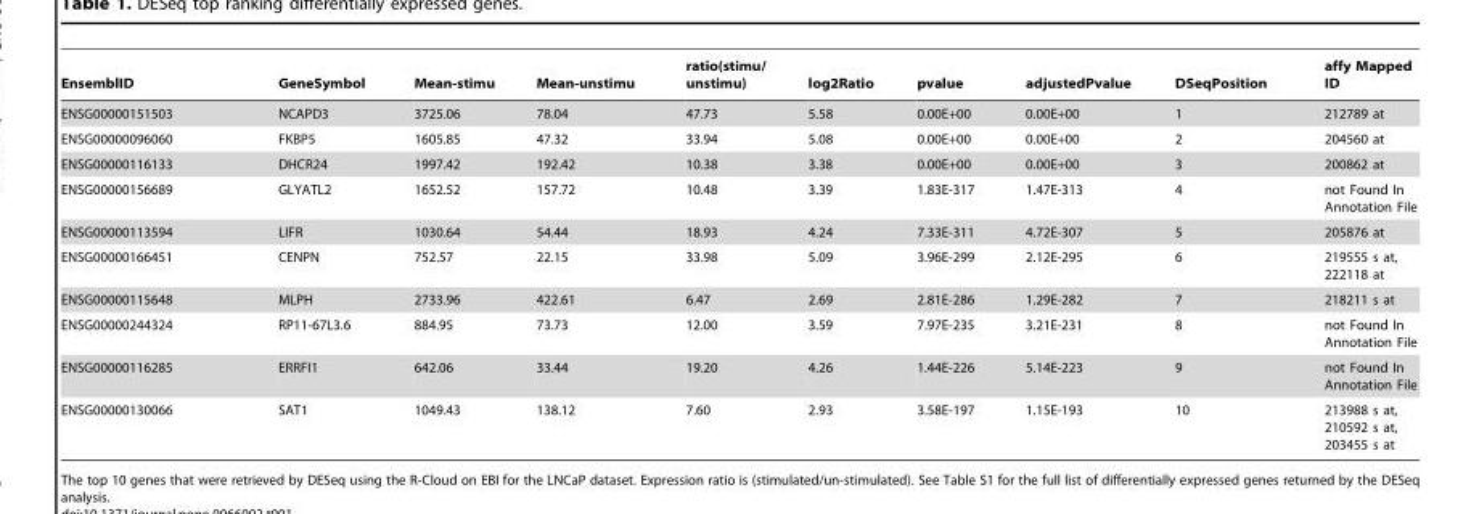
<table><thead><tr><td>EnsemblID</td><td>GeneSymbol</td><td>Mean-stimu</td><td>Mean-unstimu</td><td>ratio(stimu/ unstimu)</td><td>log2Ratio</td><td>pvalue</td><td>adjustedPvalue</td><td>DSeqPosition</td><td>affy Mapped ID</td></tr></thead><tbody><tr><td>ENSG00000151503</td><td>NCAPD3</td><td>3725.06</td><td>78.04</td><td>47.73</td><td>5.58</td><td>0.00E+00</td><td>0.00E+00</td><td>1</td><td>212789 at</td></tr><tr><td>ENSG00000096060</td><td>FKBP5</td><td>1605.85</td><td>47.32</td><td>33.94</td><td>5.08</td><td>0.00E+00</td><td>0.00E+00</td><td>2</td><td>204560 at</td></tr><tr><td>ENSG00000116133</td><td>DHCR24</td><td>1997.42</td><td>192.42</td><td>10.38</td><td>3.38</td><td>0.00E+00</td><td>0.00E+00</td><td>3</td><td>200862 at</td></tr><tr><td>ENSG00000156689</td><td>GLYATL2</td><td>1652.52</td><td>157.72</td><td>10.48</td><td>3.39</td><td>1.83E-317</td><td>1.47E-313</td><td>4</td><td>not Found In Annotation File</td></tr><tr><td>ENSG00000113594</td><td>LIFR</td><td>1030.64</td><td>54.44</td><td>18.93</td><td>4.24</td><td>7.33E-311</td><td>4.72E-307</td><td>5</td><td>205876 at</td></tr><tr><td>ENSG00000166451</td><td>CENPN</td><td>752.57</td><td>22.15</td><td>33.98</td><td>5.09</td><td>3.96E-299</td><td>2.12E-295</td><td>6</td><td>219555 s at, 222118 at</td></tr><tr><td>ENSG00000115648</td><td>MLPH</td><td>2733.96</td><td>422.61</td><td>6.47</td><td>2.69</td><td>2.81E-286</td><td>1.29E-282</td><td>7</td><td>218211 s at</td></tr><tr><td>ENSG00000244324</td><td>RP11-67L3.6</td><td>884.95</td><td>73.73</td><td>12.00</td><td>3.59</td><td>7.97E-235</td><td>3.21E-231</td><td>8</td><td>not Found In Annotation File</td></tr><tr><td>ENSG00000116285</td><td>ERRFI1</td><td>642.06</td><td>33.44</td><td>19.20</td><td>4.26</td><td>1.44E-226</td><td>5.14E-223</td><td>9</td><td>not Found In Annotation File</td></tr><tr><td>ENSG00000130066</td><td>SAT1</td><td>1049.43</td><td>138.12</td><td>7.60</td><td>2.93</td><td>3.58E-197</td><td>1.15E-193</td><td>10</td><td>213988 s at, 210592 s at, 203455 s at</td></tr></tbody></table>